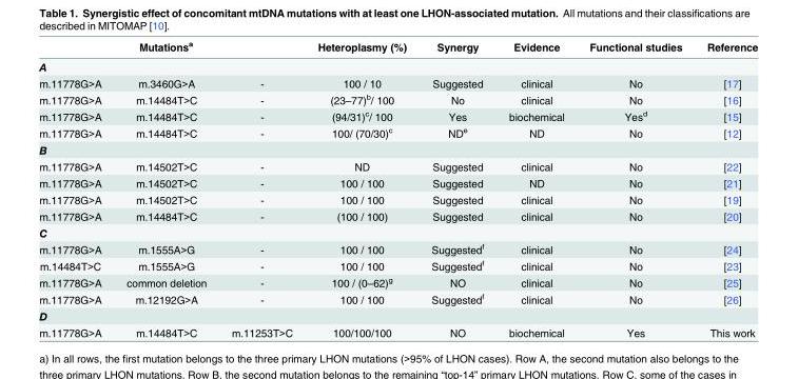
<table><thead><tr><td colspan="3">Mutations<sup>a</sup></td><td rowspan="3">Heteroplasmy (%) 100 / 10</td><td rowspan="3">Synergy Suggested</td><td rowspan="3">Evidence clinical</td><td rowspan="3">Functional studies No</td><td rowspan="3">Reference [17]</td></tr><tr><td colspan="2">A</td><td rowspan="2">-</td></tr><tr><td>m.11778G&gt;A</td><td>m.3460G&gt;A</td></tr></thead><tbody><tr><td>m.11778G&gt;A</td><td>m.14484T&gt;C</td><td>-</td><td>(23–77)<sup>b</sup>/ 100</td><td>No</td><td>clinical</td><td>No</td><td>[16]</td></tr><tr><td>m.11778G&gt;A</td><td>m.14484T&gt;C</td><td>-</td><td>(94/31)<sup>c</sup>/ 100</td><td>Yes</td><td>biochemical</td><td>Yes<sup>d</sup></td><td>[15]</td></tr><tr><td>m.11778G&gt;A</td><td>m.14484T&gt;C</td><td>-</td><td>100/ (70/30)<sup>c</sup></td><td>ND<sup>e</sup></td><td>ND</td><td>No</td><td>[12]</td></tr><tr><td colspan="8">B</td></tr><tr><td>m.11778G&gt;A</td><td>m.14502T&gt;C</td><td>-</td><td>ND</td><td>Suggested</td><td>clinical</td><td>No</td><td>[22]</td></tr><tr><td>m.11778G&gt;A</td><td>m.14502T&gt;C</td><td>-</td><td>100 / 100</td><td>Suggested</td><td>ND</td><td>No</td><td>[21]</td></tr><tr><td>m.11778G&gt;A</td><td>m.14502T&gt;C</td><td>-</td><td>100 / 100</td><td>Suggested</td><td>clinical</td><td>No</td><td>[19]</td></tr><tr><td>m.11778G&gt;A</td><td>m.14484T&gt;C</td><td>-</td><td>(100 / 100)</td><td>Suggested</td><td>clinical</td><td>No</td><td>[20]</td></tr><tr><td colspan="8">C</td></tr><tr><td>m.11778G&gt;A</td><td>m.1555A&gt;G</td><td>-</td><td>100 / 100</td><td>Suggested<sup>f</sup></td><td>clinical</td><td>No</td><td>[24]</td></tr><tr><td>m.14484T&gt;C</td><td>m.1555A&gt;G</td><td>-</td><td>100 / 100</td><td>Suggested<sup>f</sup></td><td>clinical</td><td>No</td><td>[23]</td></tr><tr><td>m.11778G&gt;A</td><td>common deletion</td><td>-</td><td>100 / (0–62)<sup>g</sup></td><td>NO</td><td>clinical</td><td>No</td><td>[25]</td></tr><tr><td>m.11778G&gt;A</td><td>m.12192G&gt;A</td><td>-</td><td>100 / 100</td><td>Suggested<sup>f</sup></td><td>clinical</td><td>No</td><td>[26]</td></tr><tr><td colspan="8">D</td></tr><tr><td>m.11778G&gt;A</td><td>m.14484T&gt;C</td><td>m.11253T&gt;C</td><td>100/100/100</td><td>NO</td><td>biochemical</td><td>Yes</td><td>This work</td></tr></tbody></table>